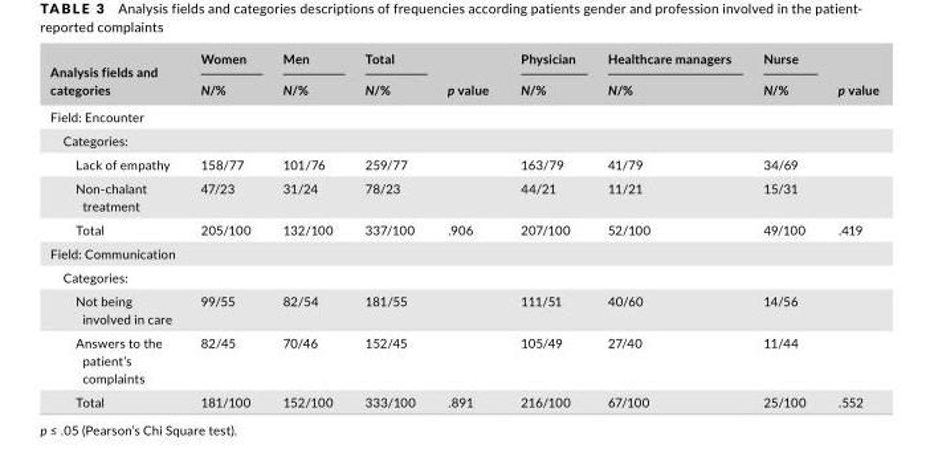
<table><thead><tr><td rowspan="2">Analysis fields and categories</td><td rowspan="2">Women N/%</td><td rowspan="2">Men N/%</td><td rowspan="2">Total N/%</td><td rowspan="2">p value</td><td rowspan="2">Physician N/%</td><td rowspan="2">Healthcare managers N/%</td><td rowspan="2">Nurse N/%</td><td rowspan="2">p value</td></tr><tr></tr></thead><tbody><tr><td colspan="9">Field: Encounter</td></tr><tr><td colspan="9">Categories:</td></tr><tr><td>Lack of empathy</td><td>158/77</td><td>101/76</td><td>259/77</td><td></td><td>163/79</td><td>41/79</td><td>34/69</td><td></td></tr><tr><td>Non- chalant treatment</td><td>47/23</td><td>31/24</td><td>78/23</td><td></td><td>44/21</td><td>11/21</td><td>15/31</td><td></td></tr><tr><td>Total</td><td>205/100</td><td>132/100</td><td>337/100</td><td>.906</td><td>207/100</td><td>52/100</td><td>49/100</td><td>.419</td></tr><tr><td colspan="9">Field: Communication</td></tr><tr><td colspan="9">Categories:</td></tr><tr><td>Not being involved in care</td><td>99/55</td><td>82/54</td><td>181/55</td><td></td><td>111/51</td><td>40/60</td><td>14/56</td><td></td></tr><tr><td>Answers to the patient’s complaints</td><td>82/45</td><td>70/46</td><td>152/45</td><td></td><td>105/49</td><td>27/40</td><td>11/44</td><td></td></tr><tr><td>Total</td><td>181/100</td><td>152/100</td><td>333/100</td><td>.891</td><td>216/100</td><td>67/100</td><td>25/100</td><td>.552</td></tr></tbody></table>